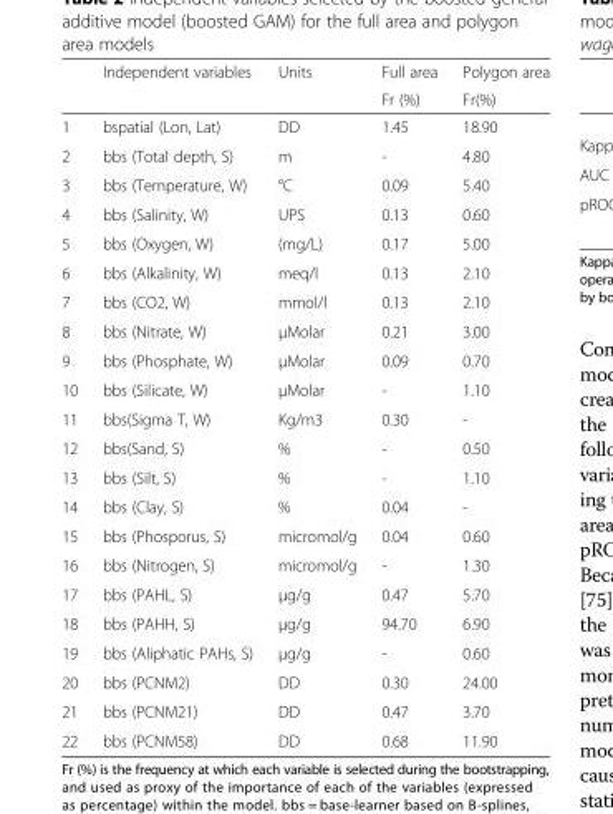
<table><thead><tr><td rowspan="2"></td><td rowspan="2">Independent variables</td><td rowspan="2">Units</td><td rowspan="2">Full area Fr (%)</td><td rowspan="2">Polygon area Fr(%)</td></tr><tr></tr></thead><tbody><tr><td>1</td><td>bspatial (Lon, Lat)</td><td>DD</td><td>1.45</td><td>18.90</td></tr><tr><td>2</td><td>bbs (Total depth, S)</td><td>m</td><td>-</td><td>4.80</td></tr><tr><td>3</td><td>bbs (Temperature, W)</td><td>°C</td><td>0.09</td><td>5.40</td></tr><tr><td>4</td><td>bbs (Salinity, W)</td><td>UPS</td><td>0.13</td><td>0.60</td></tr><tr><td>5</td><td>bbs (Oxygen, W)</td><td>(mg/L)</td><td>0.17</td><td>5.00</td></tr><tr><td>6</td><td>bbs (Alkalinity, W)</td><td>meq/l</td><td>0.13</td><td>2.10</td></tr><tr><td>7</td><td>bbs (CO2, W)</td><td>mmol/l</td><td>0.13</td><td>2.10</td></tr><tr><td>8</td><td>bbs (Nitrate, W)</td><td>μMolar</td><td>0.21</td><td>3.00</td></tr><tr><td>9</td><td>bbs (Phosphate, W)</td><td>μMolar</td><td>0.09</td><td>0.70</td></tr><tr><td>10</td><td>bbs (Silicate, W)</td><td>μMolar</td><td>-</td><td>1.10</td></tr><tr><td>11</td><td>bbs(Sigma T, W)</td><td>Kg/m3</td><td>0.30</td><td>-</td></tr><tr><td>12</td><td>bbs(Sand, S)</td><td>%</td><td>-</td><td>0.50</td></tr><tr><td>13</td><td>bbs (Silt, S)</td><td>%</td><td>-</td><td>1.10</td></tr><tr><td>14</td><td>bbs (Clay, S)</td><td>%</td><td>0.04</td><td>-</td></tr><tr><td>15</td><td>bbs (Phosporus, S)</td><td>micromol/g</td><td>0.04</td><td>0.60</td></tr><tr><td>16</td><td>bbs (Nitrogen, S)</td><td>micromol/g</td><td>-</td><td>1.30</td></tr><tr><td>17</td><td>bbs (PAHL, S)</td><td>μg/g</td><td>0.47</td><td>5.70</td></tr><tr><td>18</td><td>bbs (PAHH, S)</td><td>μg/g</td><td>94.70</td><td>6.90</td></tr><tr><td>19</td><td>bbs (Aliphatic PAHs, S)</td><td>μg/g</td><td>-</td><td>0.60</td></tr><tr><td>20</td><td>bbs (PCNM2)</td><td>DD</td><td>0.30</td><td>24.00</td></tr><tr><td>21</td><td>bbs (PCNM21)</td><td>DD</td><td>0.47</td><td>3.70</td></tr><tr><td>22</td><td>bbs (PCNM58)</td><td>DD</td><td>0.68</td><td>11.90</td></tr></tbody></table>